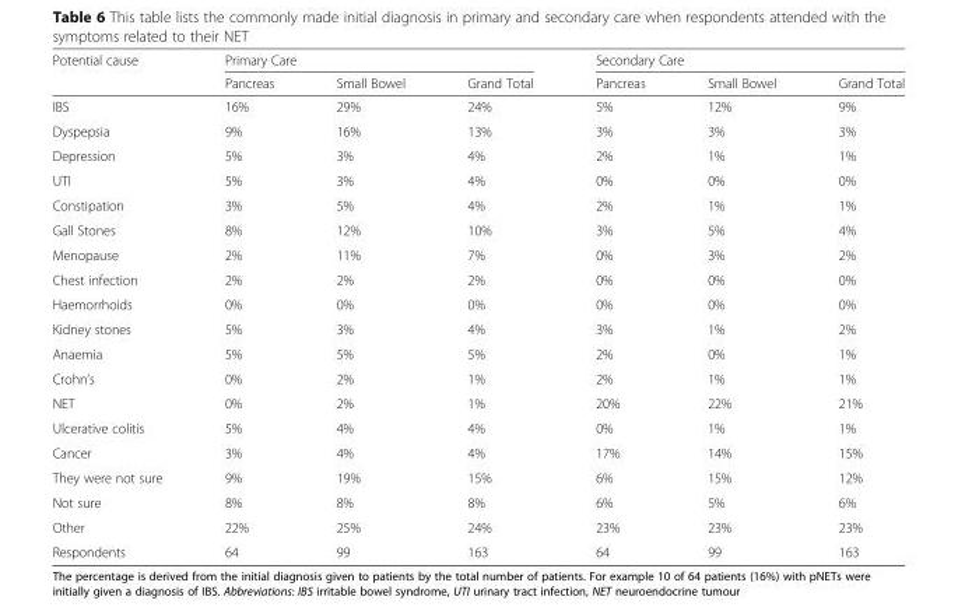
<table><thead><tr><td rowspan="2">Potential cause</td><td colspan="3">Primary Care</td><td colspan="3">Secondary Care</td></tr><tr><td>Pancreas</td><td>Small Bowel</td><td>Grand Total</td><td>Pancreas</td><td>Small Bowel</td><td>Grand Total</td></tr></thead><tbody><tr><td>IBS</td><td>16%</td><td>29%</td><td>24%</td><td>5%</td><td>12%</td><td>9%</td></tr><tr><td>Dyspepsia</td><td>9%</td><td>16%</td><td>13%</td><td>3%</td><td>3%</td><td>3%</td></tr><tr><td>Depression</td><td>5%</td><td>3%</td><td>4%</td><td>2%</td><td>1%</td><td>1%</td></tr><tr><td>UTI</td><td>5%</td><td>3%</td><td>4%</td><td>0%</td><td>0%</td><td>0%</td></tr><tr><td>Constipation</td><td>3%</td><td>5%</td><td>4%</td><td>2%</td><td>1%</td><td>1%</td></tr><tr><td>Gall Stones</td><td>8%</td><td>12%</td><td>10%</td><td>3%</td><td>5%</td><td>4%</td></tr><tr><td>Menopause</td><td>2%</td><td>11%</td><td>7%</td><td>0%</td><td>3%</td><td>2%</td></tr><tr><td>Chest infection</td><td>2%</td><td>2%</td><td>2%</td><td>0%</td><td>0%</td><td>0%</td></tr><tr><td>Haemorrhoids</td><td>0%</td><td>0%</td><td>0%</td><td>0%</td><td>0%</td><td>0%</td></tr><tr><td>Kidney stones</td><td>5%</td><td>3%</td><td>4%</td><td>3%</td><td>1%</td><td>2%</td></tr><tr><td>Anaemia</td><td>5%</td><td>5%</td><td>5%</td><td>2%</td><td>0%</td><td>1%</td></tr><tr><td>Crohn’s</td><td>0%</td><td>2%</td><td>1%</td><td>2%</td><td>1%</td><td>1%</td></tr><tr><td>NET</td><td>0%</td><td>2%</td><td>1%</td><td>20%</td><td>22%</td><td>21%</td></tr><tr><td>Ulcerative colitis</td><td>5%</td><td>4%</td><td>4%</td><td>0%</td><td>1%</td><td>1%</td></tr><tr><td>Cancer</td><td>3%</td><td>4%</td><td>4%</td><td>17%</td><td>14%</td><td>15%</td></tr><tr><td>They were not sure</td><td>9%</td><td>19%</td><td>15%</td><td>6%</td><td>15%</td><td>12%</td></tr><tr><td>Not sure</td><td>8%</td><td>8%</td><td>8%</td><td>6%</td><td>5%</td><td>6%</td></tr><tr><td>Other</td><td>22%</td><td>25%</td><td>24%</td><td>23%</td><td>23%</td><td>23%</td></tr><tr><td>Respondents</td><td>64</td><td>99</td><td>163</td><td>64</td><td>99</td><td>163</td></tr></tbody></table>